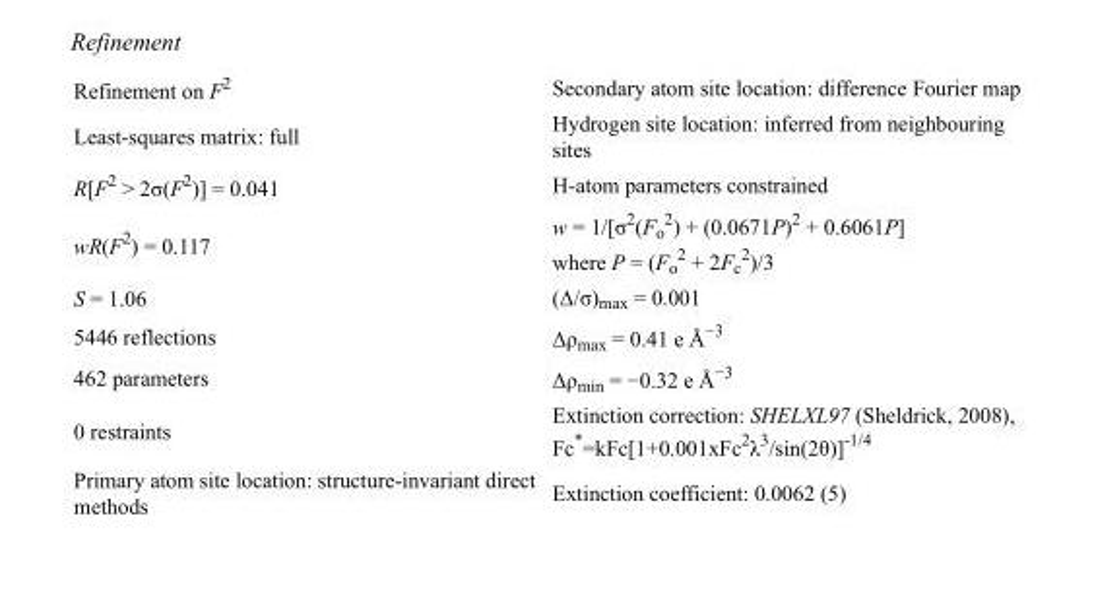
<table><tbody><tr><td>Refinement on F<sup>2</sup></td><td>Secondary atom site location: difference Fourier map</td></tr><tr><td>Least-squares matrix: full</td><td>Hydrogen site location: inferred from neighbouring sites</td></tr><tr><td>R[F<sup>2</sup> &gt; 2σ(F<sup>2</sup>)] = 0.041</td><td>H-atom parameters constrained</td></tr><tr><td>wR(F<sup>2</sup>) = 0.117</td><td>w = 1/[σ<sup>2</sup>(F<sub>o</sub> <sup>2</sup>) + (0.0671P)<sup>2</sup> + 0.6061P] where P = (F<sub>o</sub> <sup>2</sup> + 2F<sub>c</sub> <sup>2</sup>)/3</td></tr><tr><td>S = 1.06</td><td>(Δ/σ)<sub>max</sub> = 0.001</td></tr><tr><td>5446 reflections</td><td>Δρ<sub>max</sub> = 0.41 e Å<sup>−3</sup></td></tr><tr><td>462 parameters</td><td>Δρ<sub>min</sub> = −0.32 e Å<sup>−3</sup></td></tr><tr><td>0 restraints</td><td>Extinction correction: SHELXL97 (Sheldrick, 2008), Fc*=kFc[1+0.001xFc<sup>2</sup>λ<sup>3</sup>/sin(2θ)]<sup>-1/4</sup></td></tr><tr><td>Primary atom site location: structure-invariant direct methods</td><td>Extinction coefficient: 0.0062 (5)</td></tr></tbody></table>